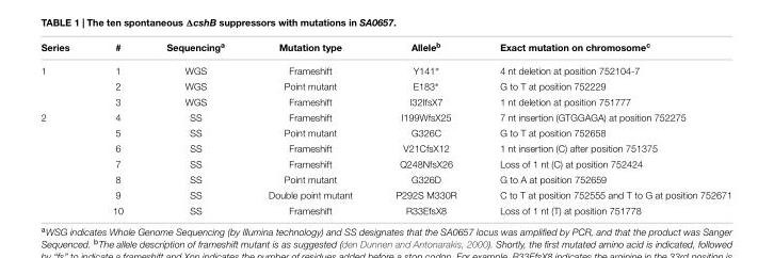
<table><thead><tr><td>Series</td><td>#</td><td>Sequencing<sup>a</sup></td><td>Mutation type</td><td>Allele<sup>b</sup></td><td>Exact mutation on chromosome<sup>c</sup></td></tr></thead><tbody><tr><td rowspan="3">1</td><td>1</td><td>WGS</td><td>Frameshift</td><td>Y141∗</td><td>4 nt deletion at position 752104-7</td></tr><tr><td>2</td><td>WGS</td><td>Point mutant</td><td>E183∗</td><td>G to T at position 752229</td></tr><tr><td>3</td><td>WGS</td><td>Frameshift</td><td>I32IfsX7</td><td>1 nt deletion at position 751777</td></tr><tr><td rowspan="7">2</td><td>4</td><td>SS</td><td>Frameshift</td><td>I199WfsX25</td><td>7 nt insertion (GTGGAGA) at position 752275</td></tr><tr><td>5</td><td>SS</td><td>Point mutant</td><td>G326C</td><td>G to T at position 752658</td></tr><tr><td>6</td><td>SS</td><td>Frameshift</td><td>V21CfsX12</td><td>1 nt insertion (C) after position 751375</td></tr><tr><td>7</td><td>SS</td><td>Frameshift</td><td>Q248NfsX26</td><td>Loss of 1 nt (C) at position 752424</td></tr><tr><td>8</td><td>SS</td><td>Point mutant</td><td>G326D</td><td>G to A at position 752659</td></tr><tr><td>9</td><td>SS</td><td>Double point mutant</td><td>P292S M330R</td><td>C to T at position 752555 and T to G at position 752671</td></tr><tr><td>10</td><td>SS</td><td>Frameshift</td><td>R33EfsX8</td><td>Loss of 1 nt (T) at position 751778</td></tr></tbody></table>